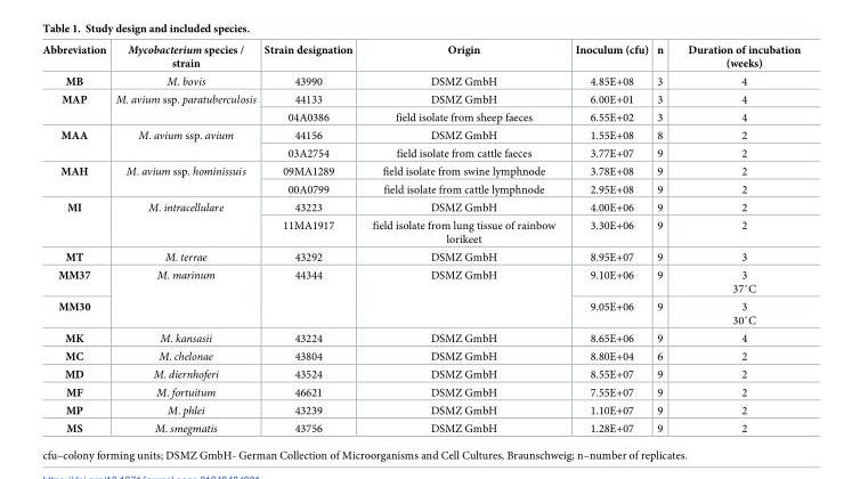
<table><thead><tr><td>Abbreviation</td><td>Mycobacterium species / strain</td><td>Strain designation</td><td>Origin</td><td>Inoculum (cfu)</td><td>n</td><td>Duration of incubation (weeks)</td></tr></thead><tbody><tr><td>MB</td><td>M. bovis</td><td>43990</td><td>DSMZ GmbH</td><td>4.85E+08</td><td>3</td><td>4</td></tr><tr><td rowspan="2">MAP</td><td rowspan="2">M. avium ssp. paratuberculosis</td><td>44133</td><td>DSMZ GmbH</td><td>6.00E+01</td><td>3</td><td>4</td></tr><tr><td>04A0386</td><td>field isolate from sheep faeces</td><td>6.55E+02</td><td>3</td><td>4</td></tr><tr><td rowspan="2">MAA</td><td rowspan="2">M. avium ssp. avium</td><td>44156</td><td>DSMZ GmbH</td><td>1.55E+08</td><td>8</td><td>2</td></tr><tr><td>03A2754</td><td>field isolate from cattle faeces</td><td>3.77E+07</td><td>9</td><td>2</td></tr><tr><td rowspan="2">MAH</td><td rowspan="2">M. avium ssp. hominissuis</td><td>09MA1289</td><td>field isolate from swine lymphnode</td><td>3.78E+08</td><td>9</td><td>2</td></tr><tr><td>00A0799</td><td>field isolate from cattle lymphnode</td><td>2.95E+08</td><td>9</td><td>2</td></tr><tr><td rowspan="2">MI</td><td rowspan="2">M. intracellulare</td><td>43223</td><td>DSMZ GmbH</td><td>4.00E+06</td><td>9</td><td>2</td></tr><tr><td>11MA1917</td><td>field isolate from lung tissue of rainbow lorikeet</td><td>3.30E+06</td><td>9</td><td>2</td></tr><tr><td>MT</td><td>M. terrae</td><td>43292</td><td>DSMZ GmbH</td><td>8.95E+07</td><td>9</td><td>3</td></tr><tr><td>MM37</td><td rowspan="2">M. marinum</td><td rowspan="2">44344</td><td rowspan="2">DSMZ GmbH</td><td>9.10E+06</td><td>9</td><td>3 37˚C</td></tr><tr><td>MM30</td><td>9.05E+06</td><td>9</td><td>3 30˚C</td></tr><tr><td>MK</td><td>M. kansasii</td><td>43224</td><td>DSMZ GmbH</td><td>8.65E+06</td><td>9</td><td>4</td></tr><tr><td>MC</td><td>M. chelonae</td><td>43804</td><td>DSMZ GmbH</td><td>8.80E+04</td><td>6</td><td>2</td></tr><tr><td>MD</td><td>M. diernhoferi</td><td>43524</td><td>DSMZ GmbH</td><td>8.55E+07</td><td>9</td><td>2</td></tr><tr><td>MF</td><td>M. fortuitum</td><td>46621</td><td>DSMZ GmbH</td><td>7.55E+07</td><td>9</td><td>2</td></tr><tr><td>MP</td><td>M. phlei</td><td>43239</td><td>DSMZ GmbH</td><td>1.10E+07</td><td>9</td><td>2</td></tr><tr><td>MS</td><td>M. smegmatis</td><td>43756</td><td>DSMZ GmbH</td><td>1.28E+07</td><td>9</td><td>2</td></tr></tbody></table>